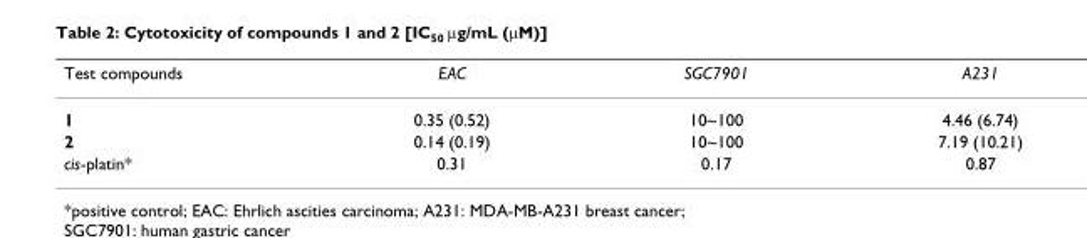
<table><thead><tr><td>Test compounds</td><td>EAC</td><td>SGC7901</td><td>A231</td></tr></thead><tbody><tr><td>1</td><td>0.35 (0.52)</td><td>10~100</td><td>4.46 (6.74)</td></tr><tr><td>2</td><td>0.14 (0.19)</td><td>10~100</td><td>7.19 (10.21)</td></tr><tr><td>cis-platin*</td><td>0.31</td><td>0.17</td><td>0.87</td></tr></tbody></table>